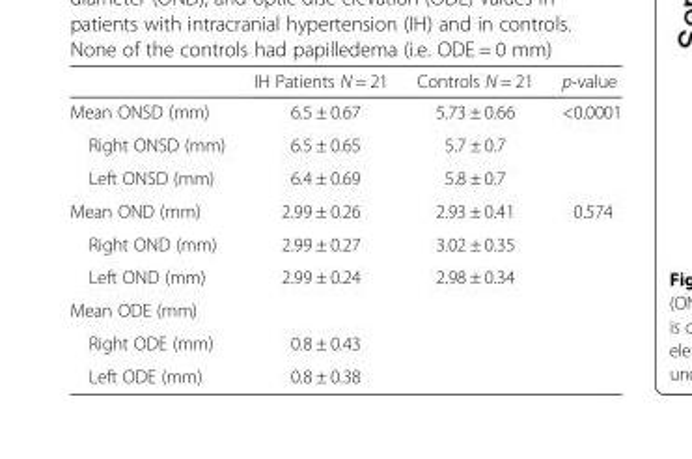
<table><thead><tr><td></td><td>IH Patients N = 21</td><td>Controls N = 21</td><td>p-value</td></tr></thead><tbody><tr><td>Mean ONSD (mm)</td><td>6.5 ± 0.67</td><td>5.73 ± 0.66</td><td rowspan="3">&lt;0.0001</td></tr><tr><td>Right ONSD (mm)</td><td>6.5 ± 0.65</td><td>5.7 ± 0.7</td></tr><tr><td>Left ONSD (mm)</td><td>6.4 ± 0.69</td><td>5.8 ± 0.7</td></tr><tr><td>Mean OND (mm)</td><td>2.99 ± 0.26</td><td>2.93 ± 0.41</td><td rowspan="3">0.574</td></tr><tr><td>Right OND (mm)</td><td>2.99 ± 0.27</td><td>3.02 ± 0.35</td></tr><tr><td>Left OND (mm)</td><td>2.99 ± 0.24</td><td>2.98 ± 0.34</td></tr><tr><td colspan="4">Mean ODE (mm)</td></tr><tr><td>Right ODE (mm)</td><td>0.8 ± 0.43</td><td rowspan="2"></td><td rowspan="2"></td></tr><tr><td>Left ODE (mm)</td><td>0.8 ± 0.38</td></tr></tbody></table>